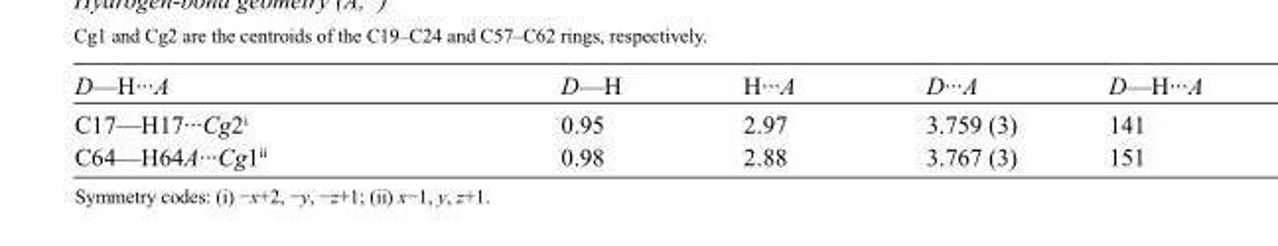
<table><tbody><tr><td>D—H···A</td><td>D—H</td><td>H···A</td><td>D···A</td><td>D—H···A</td></tr><tr><td>C17—H17···Cg2<sup>i</sup></td><td>0.95</td><td>2.97</td><td>3.759 (3)</td><td>141</td></tr><tr><td>C64—H64A···Cg1<sup>ii</sup></td><td>0.98</td><td>2.88</td><td>3.767 (3)</td><td>151</td></tr></tbody></table>